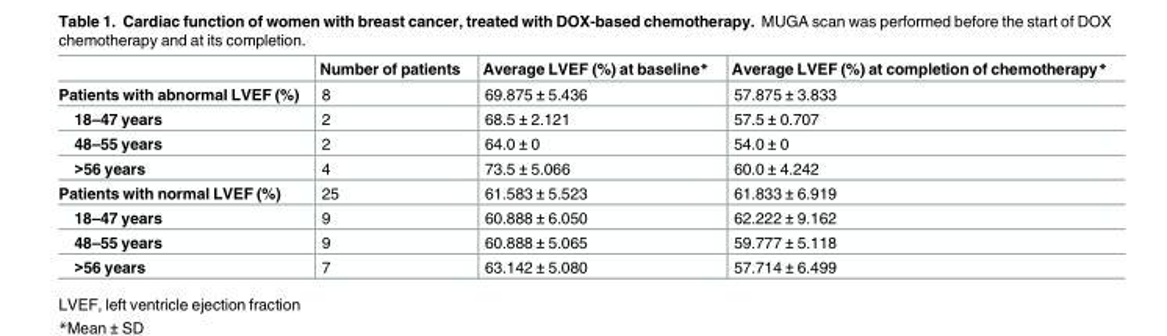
<table><thead><tr><td></td><td>Number of patients</td><td>Average LVEF (%) at baseline*</td><td>Average LVEF (%) at completion of chemotherapy*</td></tr></thead><tbody><tr><td>Patients with abnormal LVEF (%)</td><td>8</td><td>69.875 ± 5.436</td><td>57.875 ± 3.833</td></tr><tr><td>18–47 years</td><td>2</td><td>68.5 ± 2.121</td><td>57.5 ± 0.707</td></tr><tr><td>48–55 years</td><td>2</td><td>64.0 ± 0</td><td>54.0 ± 0</td></tr><tr><td>&gt;56 years</td><td>4</td><td>73.5 ± 5.066</td><td>60.0 ± 4.242</td></tr><tr><td>Patients with normal LVEF (%)</td><td>25</td><td>61.583 ± 5.523</td><td>61.833 ± 6.919</td></tr><tr><td>18–47 years</td><td>9</td><td>60.888 ± 6.050</td><td>62.222 ± 9.162</td></tr><tr><td>48–55 years</td><td>9</td><td>60.888 ± 5.065</td><td>59.777 ± 5.118</td></tr><tr><td>&gt;56 years</td><td>7</td><td>63.142 ± 5.080</td><td>57.714 ± 6.499</td></tr></tbody></table>